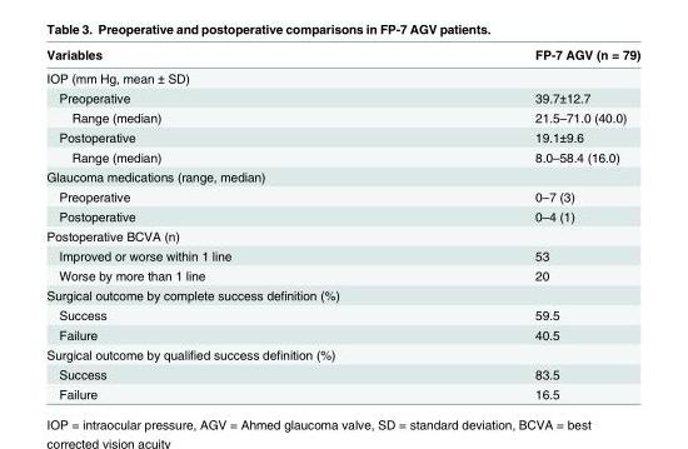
<table><thead><tr><td>Variables</td><td>FP-7 AGV (n = 79)</td></tr></thead><tbody><tr><td colspan="2">IOP (mm Hg, mean ± SD)</td></tr><tr><td>Preoperative</td><td>39.7±12.7</td></tr><tr><td>Range (median)</td><td>21.5–71.0 (40.0)</td></tr><tr><td>Postoperative</td><td>19.1±9.6</td></tr><tr><td>Range (median)</td><td>8.0–58.4 (16.0)</td></tr><tr><td colspan="2">Glaucoma medications (range, median)</td></tr><tr><td>Preoperative</td><td>0–7 (3)</td></tr><tr><td>Postoperative</td><td>0–4 (1)</td></tr><tr><td colspan="2">Postoperative BCVA (n)</td></tr><tr><td>Improved or worse within 1 line</td><td>53</td></tr><tr><td>Worse by more than 1 line</td><td>20</td></tr><tr><td colspan="2">Surgical outcome by complete success definition (%)</td></tr><tr><td>Success</td><td>59.5</td></tr><tr><td>Failure</td><td>40.5</td></tr><tr><td colspan="2">Surgical outcome by qualified success definition (%)</td></tr><tr><td>Success</td><td>83.5</td></tr><tr><td>Failure</td><td>16.5</td></tr></tbody></table>